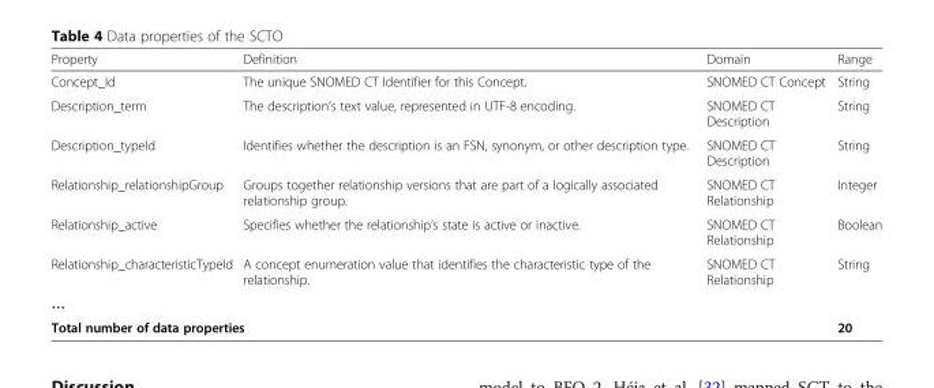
<table><thead><tr><td>Property</td><td>Definition</td><td>Domain</td><td>Range</td></tr></thead><tbody><tr><td>Concept_Id</td><td>The unique SNOMED CT Identifier for this Concept.</td><td>SNOMED CT Concept</td><td>String</td></tr><tr><td>Description_term</td><td>The description’s text value, represented in UTF-8 encoding.</td><td>SNOMED CT Description</td><td>String</td></tr><tr><td>Description_typeId</td><td>Identifies whether the description is an FSN, synonym, or other description type.</td><td>SNOMED CT Description</td><td>String</td></tr><tr><td>Relationship_relationshipGroup</td><td>Groups together relationship versions that are part of a logically associated relationship group.</td><td>SNOMED CT Relationship</td><td>Integer</td></tr><tr><td>Relationship_active</td><td>Specifies whether the relationship’s state is active or inactive.</td><td>SNOMED CT Relationship</td><td>Boolean</td></tr><tr><td>Relationship_characteristicTypeId</td><td>A concept enumeration value that identifies the characteristic type of the relationship.</td><td>SNOMED CT Relationship</td><td>String</td></tr><tr><td colspan="4">…</td></tr><tr><td colspan="3">Total number of data properties</td><td>20</td></tr></tbody></table>